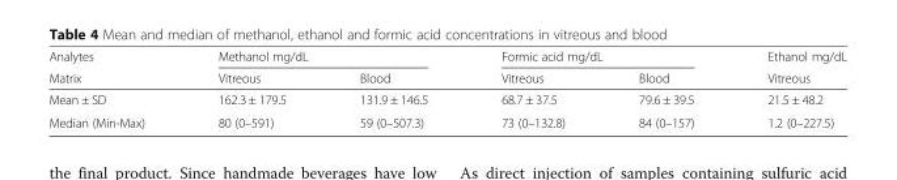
<table><thead><tr><td rowspan="2">Analytes Matrix</td><td colspan="2">Methanol mg/dL</td><td colspan="2">Formic acid mg/dL</td><td rowspan="2">Ethanol mg/dL Vitreous</td></tr><tr><td>Vitreous</td><td>Blood</td><td>Vitreous</td><td>Blood</td></tr></thead><tbody><tr><td>Mean ± SD</td><td>162.3 ± 179.5</td><td>131.9 ± 146.5</td><td>68.7 ± 37.5</td><td>79.6 ± 39.5</td><td>21.5 ± 48.2</td></tr><tr><td>Median (Min-Max)</td><td>80 (0–591)</td><td>59 (0–507.3)</td><td>73 (0–132.8)</td><td>84 (0–157)</td><td>1.2 (0–227.5)</td></tr></tbody></table>